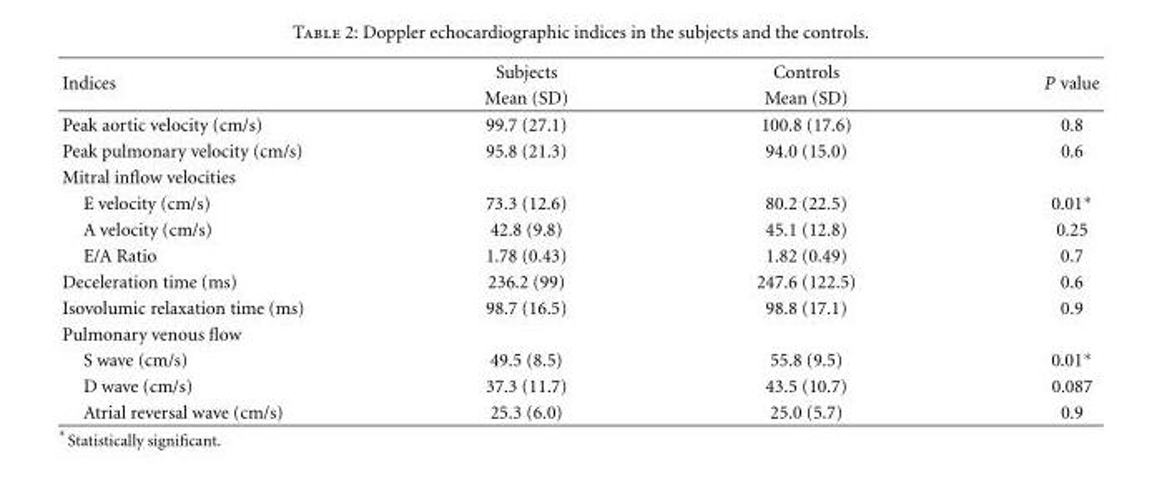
<table><thead><tr><td rowspan="2">Indices</td><td rowspan="2">Subjects Mean (SD)</td><td rowspan="2">Controls Mean (SD)</td><td rowspan="2">P value</td></tr><tr></tr></thead><tbody><tr><td>Peak aortic velocity (cm/s)</td><td>99.7 (27.1)</td><td>100.8 (17.6)</td><td>0.8</td></tr><tr><td>Peak pulmonary velocity (cm/s)</td><td>95.8 (21.3)</td><td>94.0 (15.0)</td><td>0.6</td></tr><tr><td colspan="4">Mitral inflow velocities</td></tr><tr><td>E velocity (cm/s)</td><td>73.3 (12.6)</td><td>80.2 (22.5)</td><td>0.01∗</td></tr><tr><td>A velocity (cm/s)</td><td>42.8 (9.8)</td><td>45.1 (12.8)</td><td>0.25</td></tr><tr><td>E/A Ratio</td><td>1.78 (0.43)</td><td>1.82 (0.49)</td><td>0.7</td></tr><tr><td>Deceleration time (ms)</td><td>236.2 (99)</td><td>247.6 (122.5)</td><td>0.6</td></tr><tr><td>Isovolumic relaxation time (ms)</td><td>98.7 (16.5)</td><td>98.8 (17.1)</td><td>0.9</td></tr><tr><td colspan="4">Pulmonary venous flow</td></tr><tr><td>S wave (cm/s)</td><td>49.5 (8.5)</td><td>55.8 (9.5)</td><td>0.01∗</td></tr><tr><td>D wave (cm/s)</td><td>37.3 (11.7)</td><td>43.5 (10.7)</td><td>0.087</td></tr><tr><td>Atrial reversal wave (cm/s)</td><td>25.3 (6.0)</td><td>25.0 (5.7)</td><td>0.9</td></tr></tbody></table>